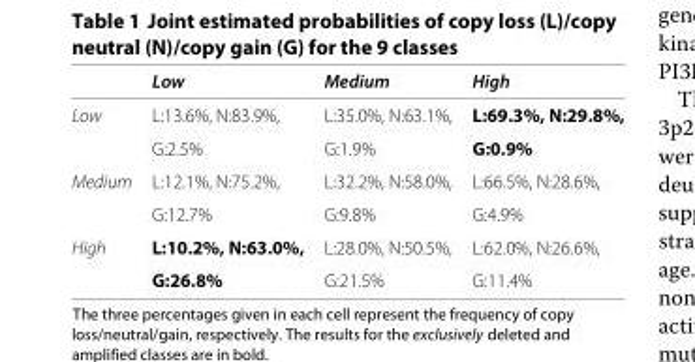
<table><thead><tr><td></td><td>Low</td><td>Medium</td><td>High</td></tr></thead><tbody><tr><td rowspan="2">Low</td><td>L:13.6%, N:83.9%,</td><td>L:35.0%, N:63.1%,</td><td>L:69.3%, N:29.8%,</td></tr><tr><td>G:2.5%</td><td>G:1.9%</td><td>G:0.9%</td></tr><tr><td rowspan="2">Medium</td><td>L:12.1%, N:75.2%,</td><td>L:32.2%, N:58.0%,</td><td>L:66.5%, N:28.6%,</td></tr><tr><td>G:12.7%</td><td>G:9.8%</td><td>G:4.9%</td></tr><tr><td rowspan="2">High</td><td>L:10.2%, N:63.0%,</td><td>L:28.0%, N:50.5%,</td><td>L:62.0%, N:26.6%,</td></tr><tr><td>G:26.8%</td><td>G:21.5%</td><td>G:11.4%</td></tr></tbody></table>